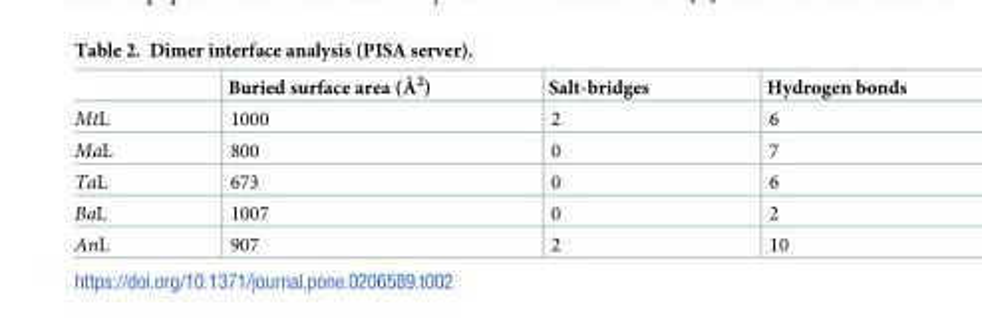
<table><thead><tr><td></td><td>Buried surface area (Å<sup>2</sup>)</td><td>Salt-bridges</td><td>Hydrogen bonds</td></tr></thead><tbody><tr><td>MtL</td><td>1000</td><td>2</td><td>6</td></tr><tr><td>MaL</td><td>800</td><td>0</td><td>7</td></tr><tr><td>TaL</td><td>673</td><td>0</td><td>6</td></tr><tr><td>BaL</td><td>1007</td><td>0</td><td>2</td></tr><tr><td>AnL</td><td>907</td><td>2</td><td>10</td></tr></tbody></table>